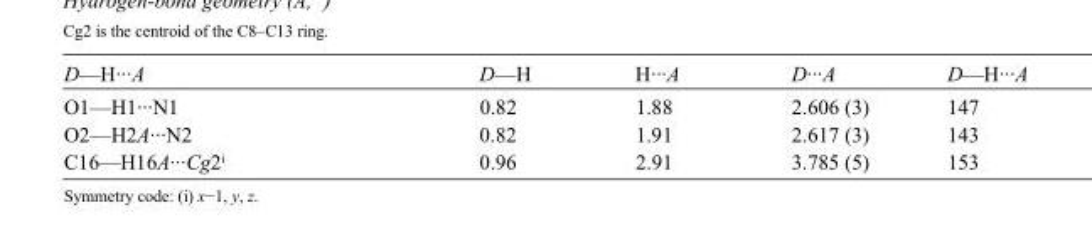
<table><tbody><tr><td>D—H···A</td><td>D—H</td><td>H···A</td><td>D···A</td><td>D—H···A</td></tr><tr><td>O1—H1···N1</td><td>0.82</td><td>1.88</td><td>2.606 (3)</td><td>147</td></tr><tr><td>O2—H2A···N2</td><td>0.82</td><td>1.91</td><td>2.617 (3)</td><td>143</td></tr><tr><td>C16—H16A···Cg2<sup>i</sup></td><td>0.96</td><td>2.91</td><td>3.785 (5)</td><td>153</td></tr></tbody></table>